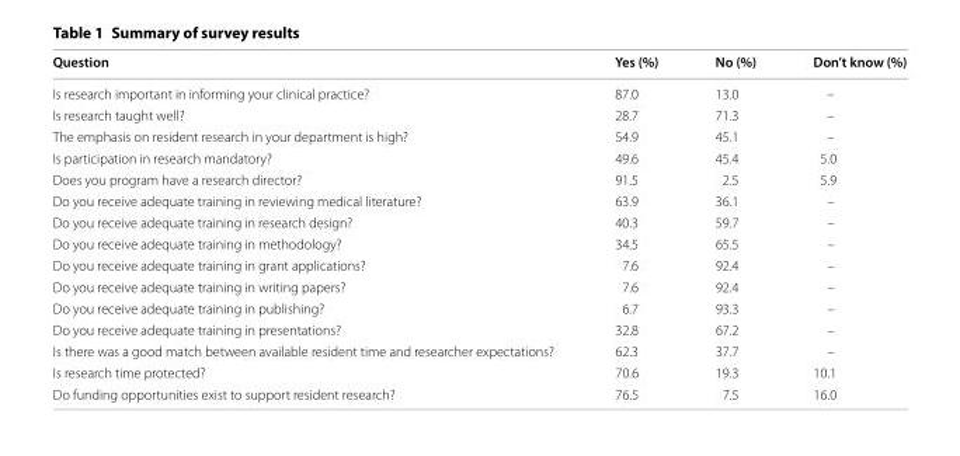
<table><thead><tr><td>Question</td><td>Yes (%)</td><td>No (%)</td><td>Don’t know (%)</td></tr></thead><tbody><tr><td>Is research important in informing your clinical practice?</td><td>87.0</td><td>13.0</td><td>–</td></tr><tr><td>Is research taught well?</td><td>28.7</td><td>71.3</td><td>–</td></tr><tr><td>The emphasis on resident research in your department is high?</td><td>54.9</td><td>45.1</td><td>–</td></tr><tr><td>Is participation in research mandatory?</td><td>49.6</td><td>45.4</td><td>5.0</td></tr><tr><td>Does you program have a research director?</td><td>91.5</td><td>2.5</td><td>5.9</td></tr><tr><td>Do you receive adequate training in reviewing medical literature?</td><td>63.9</td><td>36.1</td><td>–</td></tr><tr><td>Do you receive adequate training in research design?</td><td>40.3</td><td>59.7</td><td>–</td></tr><tr><td>Do you receive adequate training in methodology?</td><td>34.5</td><td>65.5</td><td>–</td></tr><tr><td>Do you receive adequate training in grant applications?</td><td>7.6</td><td>92.4</td><td>–</td></tr><tr><td>Do you receive adequate training in writing papers?</td><td>7.6</td><td>92.4</td><td>–</td></tr><tr><td>Do you receive adequate training in publishing?</td><td>6.7</td><td>93.3</td><td>–</td></tr><tr><td>Do you receive adequate training in presentations?</td><td>32.8</td><td>67.2</td><td>–</td></tr><tr><td>Is there was a good match between available resident time and researcher expectations?</td><td>62.3</td><td>37.7</td><td>–</td></tr><tr><td>Is research time protected?</td><td>70.6</td><td>19.3</td><td>10.1</td></tr><tr><td>Do funding opportunities exist to support resident research?</td><td>76.5</td><td>7.5</td><td>16.0</td></tr></tbody></table>